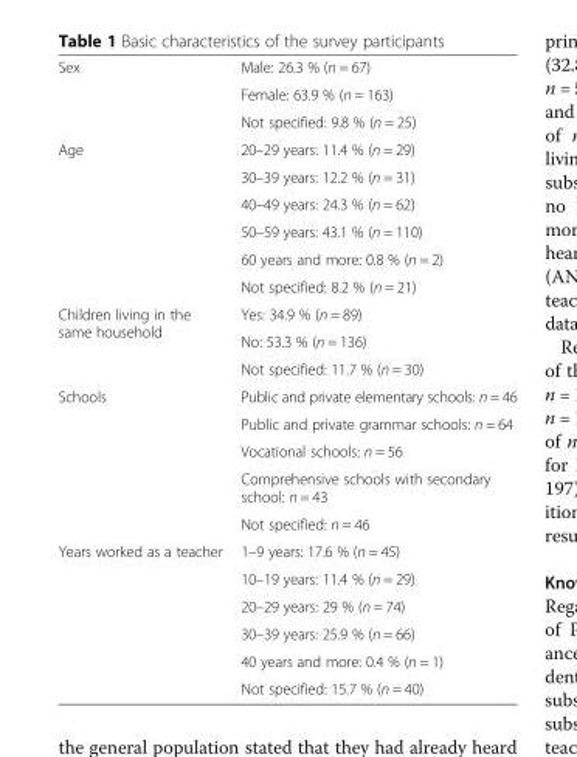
<table><tbody><tr><td rowspan="3">Sex</td><td>Male: 26.3 % (n = 67)</td></tr><tr><td>Female: 63.9 % (n = 163)</td></tr><tr><td>Not specified: 9.8 % (n = 25)</td></tr><tr><td rowspan="6">Age</td><td>20–29 years: 11.4 % (n = 29)</td></tr><tr><td>30–39 years: 12.2 % (n = 31)</td></tr><tr><td>40–49 years: 24.3 % (n = 62)</td></tr><tr><td>50–59 years: 43.1 % (n = 110)</td></tr><tr><td>60 years and more: 0.8 % (n = 2)</td></tr><tr><td>Not specified: 8.2 % (n = 21)</td></tr><tr><td rowspan="3">Children living in the same household</td><td>Yes: 34.9 % (n = 89)</td></tr><tr><td>No: 53.3 % (n = 136)</td></tr><tr><td>Not specified: 11.7 % (n = 30)</td></tr><tr><td rowspan="5">Schools</td><td>Public and private elementary schools: n = 46</td></tr><tr><td>Public and private grammar schools: n = 64</td></tr><tr><td>Vocational schools: n = 56</td></tr><tr><td>Comprehensive schools with secondary school: n = 43</td></tr><tr><td>Not specified: n = 46</td></tr><tr><td rowspan="6">Years worked as a teacher</td><td>1–9 years: 17.6 % (n = 45)</td></tr><tr><td>10–19 years: 11.4 % (n = 29)</td></tr><tr><td>20–29 years: 29 % (n = 74)</td></tr><tr><td>30–39 years: 25.9 % (n = 66)</td></tr><tr><td>40 years and more: 0.4 % (n = 1)</td></tr><tr><td>Not specified: 15.7 % (n = 40)</td></tr></tbody></table>